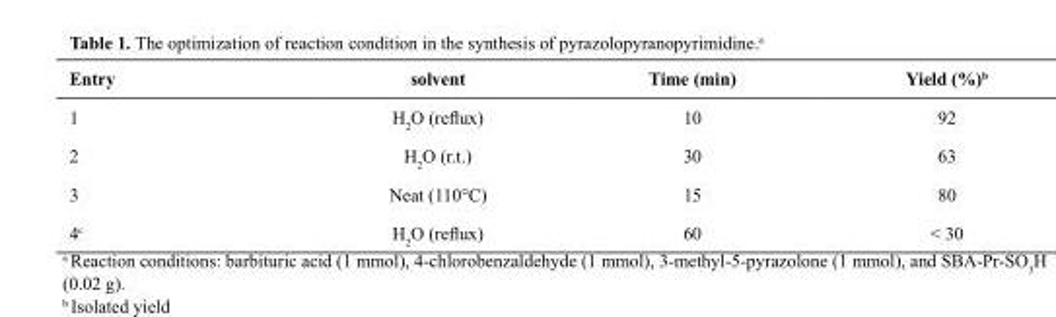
<table><thead><tr><td>Entry</td><td>solvent</td><td>Time (min)</td><td>Yield (%)<sup>b</sup></td></tr></thead><tbody><tr><td>1</td><td>H<sub>2</sub>O (reflux)</td><td>10</td><td>92</td></tr><tr><td>2</td><td>H<sub>2</sub>O (r.t.)</td><td>30</td><td>63</td></tr><tr><td>3</td><td>Neat (110°C)</td><td>15</td><td>80</td></tr><tr><td>4<sup>c</sup></td><td>H<sub>2</sub>O (reflux)</td><td>60</td><td>&lt; 30</td></tr></tbody></table>